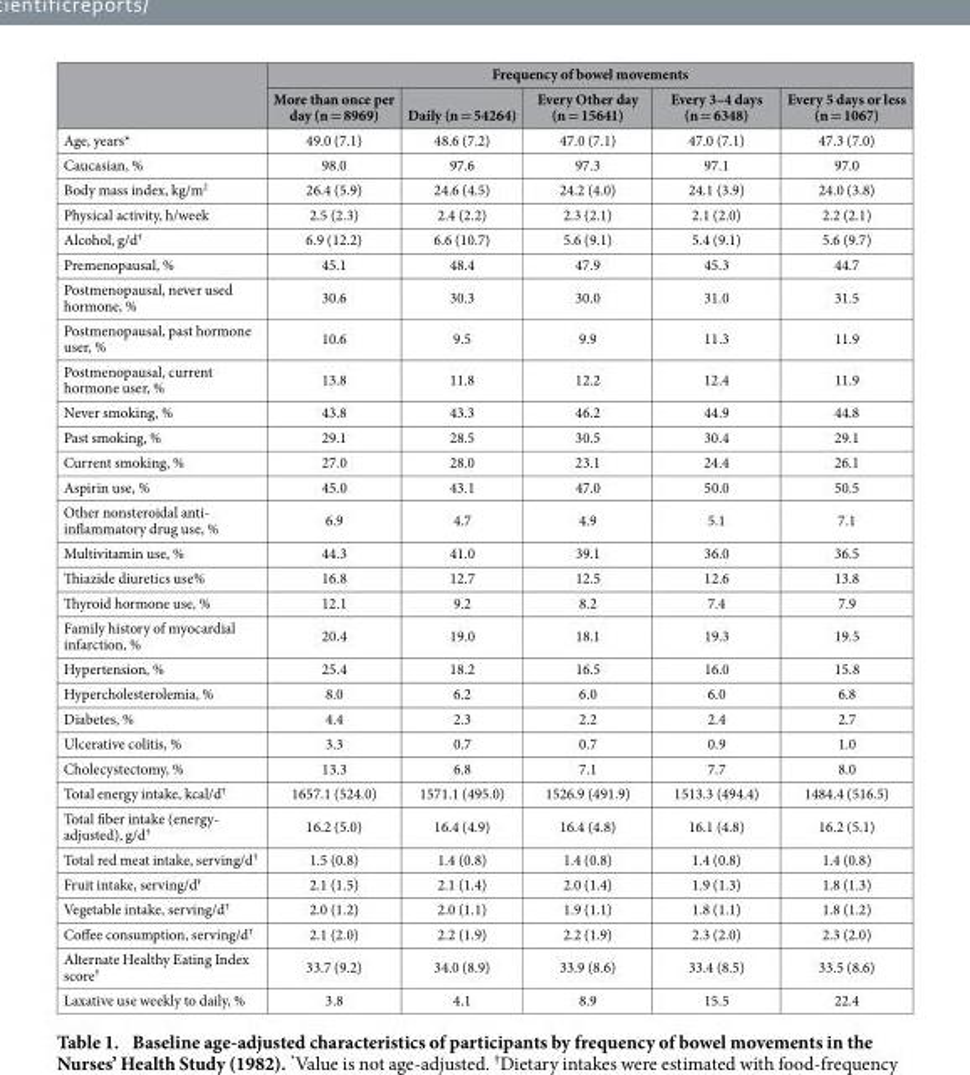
<table><thead><tr><td rowspan="2"></td><td colspan="5">Frequency of bowel movements</td></tr><tr><td>More than once per day (n = 8969)</td><td>Daily (n = 54264)</td><td>Every Other day (n = 15641)</td><td>Every 3–4 days (n = 6348)</td><td>Every 5 days or less (n = 1067)</td></tr></thead><tbody><tr><td>Age, years*</td><td>49.0 (7.1)</td><td>48.6 (7.2)</td><td>47.0 (7.1)</td><td>47.0 (7.1)</td><td>47.3 (7.0)</td></tr><tr><td>Caucasian, %</td><td>98.0</td><td>97.6</td><td>97.3</td><td>97.1</td><td>97.0</td></tr><tr><td>Body mass index, kg/m<sup>2</sup></td><td>26.4 (5.9)</td><td>24.6 (4.5)</td><td>24.2 (4.0)</td><td>24.1 (3.9)</td><td>24.0 (3.8)</td></tr><tr><td>Physical activity, h/week</td><td>2.5 (2.3)</td><td>2.4 (2.2)</td><td>2.3 (2.1)</td><td>2.1 (2.0)</td><td>2.2 (2.1)</td></tr><tr><td>Alcohol, g/d†</td><td>6.9 (12.2)</td><td>6.6 (10.7)</td><td>5.6 (9.1)</td><td>5.4 (9.1)</td><td>5.6 (9.7)</td></tr><tr><td>Premenopausal, %</td><td>45.1</td><td>48.4</td><td>47.9</td><td>45.3</td><td>44.7</td></tr><tr><td>Postmenopausal, never used hormone, %</td><td>30.6</td><td>30.3</td><td>30.0</td><td>31.0</td><td>31.5</td></tr><tr><td>Postmenopausal, past hormone user, %</td><td>10.6</td><td>9.5</td><td>9.9</td><td>11.3</td><td>11.9</td></tr><tr><td>Postmenopausal, current hormone user, %</td><td>13.8</td><td>11.8</td><td>12.2</td><td>12.4</td><td>11.9</td></tr><tr><td>Never smoking, %</td><td>43.8</td><td>43.3</td><td>46.2</td><td>44.9</td><td>44.8</td></tr><tr><td>Past smoking, %</td><td>29.1</td><td>28.5</td><td>30.5</td><td>30.4</td><td>29.1</td></tr><tr><td>Current smoking, %</td><td>27.0</td><td>28.0</td><td>23.1</td><td>24.4</td><td>26.1</td></tr><tr><td>Aspirin use, %</td><td>45.0</td><td>43.1</td><td>47.0</td><td>50.0</td><td>50.5</td></tr><tr><td>Other nonsteroidal anti- inflammatory drug use, %</td><td>6.9</td><td>4.7</td><td>4.9</td><td>5.1</td><td>7.1</td></tr><tr><td>Multivitamin use, %</td><td>44.3</td><td>41.0</td><td>39.1</td><td>36.0</td><td>36.5</td></tr><tr><td>Thiazide diuretics use%</td><td>16.8</td><td>12.7</td><td>12.5</td><td>12.6</td><td>13.8</td></tr><tr><td>Thyroid hormone use, %</td><td>12.1</td><td>9.2</td><td>8.2</td><td>7.4</td><td>7.9</td></tr><tr><td>Family history of myocardial infarction, %</td><td>20.4</td><td>19.0</td><td>18.1</td><td>19.3</td><td>19.5</td></tr><tr><td>Hypertension, %</td><td>25.4</td><td>18.2</td><td>16.5</td><td>16.0</td><td>15.8</td></tr><tr><td>Hypercholesterolemia, %</td><td>8.0</td><td>6.2</td><td>6.0</td><td>6.0</td><td>6.8</td></tr><tr><td>Diabetes, %</td><td>4.4</td><td>2.3</td><td>2.2</td><td>2.4</td><td>2.7</td></tr><tr><td>Ulcerative colitis, %</td><td>3.3</td><td>0.7</td><td>0.7</td><td>0.9</td><td>1.0</td></tr><tr><td>Cholecystectomy, %</td><td>13.3</td><td>6.8</td><td>7.1</td><td>7.7</td><td>8.0</td></tr><tr><td>Total energy intake, kcal/d†</td><td>1657.1 (524.0)</td><td>1571.1 (495.0)</td><td>1526.9 (491.9)</td><td>1513.3 (494.4)</td><td>1484.4 (516.5)</td></tr><tr><td>Total fiber intake (energy- adjusted), g/d†</td><td>16.2 (5.0)</td><td>16.4 (4.9)</td><td>16.4 (4.8)</td><td>16.1 (4.8)</td><td>16.2 (5.1)</td></tr><tr><td>Total red meat intake, serving/d†</td><td>1.5 (0.8)</td><td>1.4 (0.8)</td><td>1.4 (0.8)</td><td>1.4 (0.8)</td><td>1.4 (0.8)</td></tr><tr><td>Fruit intake, serving/d†</td><td>2.1 (1.5)</td><td>2.1 (1.4)</td><td>2.0 (1.4)</td><td>1.9 (1.3)</td><td>1.8 (1.3)</td></tr><tr><td>Vegetable intake, serving/d†</td><td>2.0 (1.2)</td><td>2.0 (1.1)</td><td>1.9 (1.1)</td><td>1.8 (1.1)</td><td>1.8 (1.2)</td></tr><tr><td>Coffee consumption, serving/d†</td><td>2.1 (2.0)</td><td>2.2 (1.9)</td><td>2.2 (1.9)</td><td>2.3 (2.0)</td><td>2.3 (2.0)</td></tr><tr><td>Alternate Healthy Eating Index score†</td><td>33.7 (9.2)</td><td>34.0 (8.9)</td><td>33.9 (8.6)</td><td>33.4 (8.5)</td><td>33.5 (8.6)</td></tr><tr><td>Laxative use weekly to daily, %</td><td>3.8</td><td>4.1</td><td>8.9</td><td>15.5</td><td>22.4</td></tr></tbody></table>